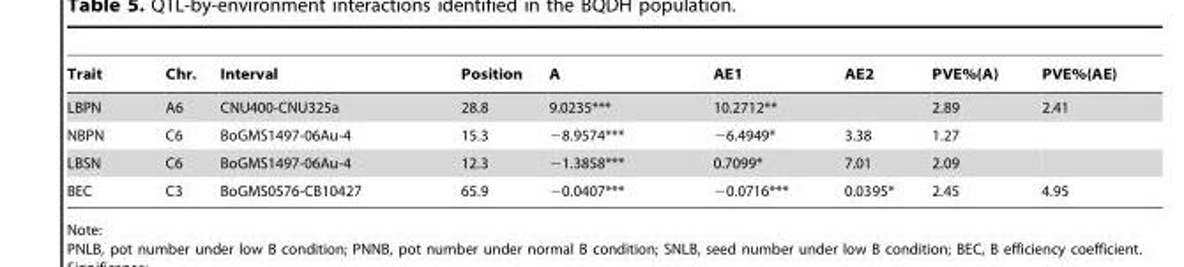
<table><thead><tr><td>Trait</td><td>Chr.</td><td>Interval</td><td>Position</td><td>A</td><td>AE1</td><td>AE2</td><td>PVE%(A)</td><td>PVE%(AE)</td></tr></thead><tbody><tr><td>LBPN</td><td>A6</td><td>CNU400-CNU325a</td><td>28.8</td><td>9.0235***</td><td>10.2712**</td><td></td><td>2.89</td><td>2.41</td></tr><tr><td>NBPN</td><td>C6</td><td>BoGMS1497-06Au-4</td><td>15.3</td><td>−8.9574***</td><td>−6.4949*</td><td>3.38</td><td>1.27</td><td></td></tr><tr><td>LBSN</td><td>C6</td><td>BoGMS1497-06Au-4</td><td>12.3</td><td>−1.3858***</td><td>0.7099*</td><td>7.01</td><td>2.09</td><td></td></tr><tr><td>BEC</td><td>C3</td><td>BoGMS0576-CB10427</td><td>65.9</td><td>−0.0407***</td><td>−0.0716***</td><td>0.0395*</td><td>2.45</td><td>4.95</td></tr></tbody></table>